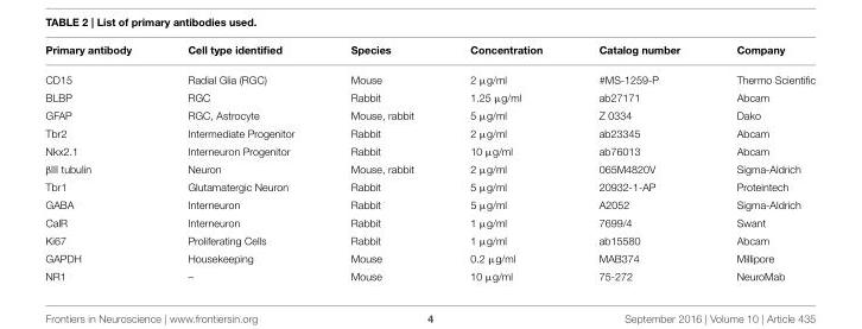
<table><thead><tr><td>Primary antibody</td><td>Cell type identified</td><td>Species</td><td>Concentration</td><td>Catalog number</td><td>Company</td></tr></thead><tbody><tr><td>CD15</td><td>Radial Glia (RGC)</td><td>Mouse</td><td>2 µg/ml</td><td>#MS-1259-P</td><td>Thermo Scientific</td></tr><tr><td>BLBP</td><td>RGC</td><td>Rabbit</td><td>1.25 µg/ml</td><td>ab27171</td><td>Abcam</td></tr><tr><td>GFAP</td><td>RGC, Astrocyte</td><td>Mouse, rabbit</td><td>5 µg/ml</td><td>Z 0334</td><td>Dako</td></tr><tr><td>Tbr2</td><td>Intermediate Progenitor</td><td>Rabbit</td><td>2 µg/ml</td><td>ab23345</td><td>Abcam</td></tr><tr><td>Nkx2.1</td><td>Interneuron Progenitor</td><td>Rabbit</td><td>10 µg/ml</td><td>ab76013</td><td>Abcam</td></tr><tr><td>βIII tubulin</td><td>Neuron</td><td>Mouse, rabbit</td><td>2 µg/ml</td><td>065M4820V</td><td>Sigma-Aldrich</td></tr><tr><td>Tbr1</td><td>Glutamatergic Neuron</td><td>Rabbit</td><td>5 µg/ml</td><td>20932-1-AP</td><td>Proteintech</td></tr><tr><td>GABA</td><td>Interneuron</td><td>Rabbit</td><td>5 µg/ml</td><td>A2052</td><td>Sigma-Aldrich</td></tr><tr><td>CalR</td><td>Interneuron</td><td>Rabbit</td><td>1 µg/ml</td><td>7699/4</td><td>Swant</td></tr><tr><td>Ki67</td><td>Proliferating Cells</td><td>Rabbit</td><td>1 µg/ml</td><td>ab15580</td><td>Abcam</td></tr><tr><td>GAPDH</td><td>Housekeeping</td><td>Mouse</td><td>0.2 µg/ml</td><td>MAB374</td><td>Millipore</td></tr><tr><td>NR1</td><td>–</td><td>Mouse</td><td>10 µg/ml</td><td>75-272</td><td>NeuroMab</td></tr></tbody></table>